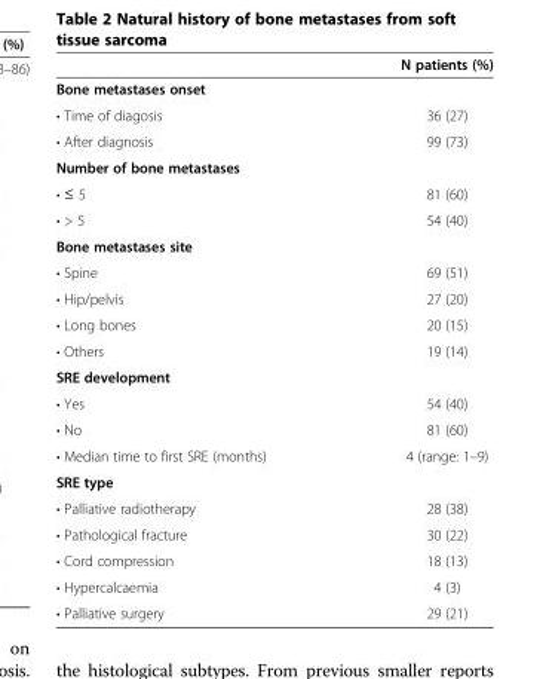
<table><thead><tr><td></td><td>N patients (%)</td></tr></thead><tbody><tr><td colspan="2">Bone metastases onset</td></tr><tr><td>• Time of diagosis</td><td>36 (27)</td></tr><tr><td>• After diagnosis</td><td>99 (73)</td></tr><tr><td colspan="2">Number of bone metastases</td></tr><tr><td>• ≤ 5</td><td>81 (60)</td></tr><tr><td>• &gt; 5</td><td>54 (40)</td></tr><tr><td colspan="2">Bone metastases site</td></tr><tr><td>• Spine</td><td>69 (51)</td></tr><tr><td>• Hip/pelvis</td><td>27 (20)</td></tr><tr><td>• Long bones</td><td>20 (15)</td></tr><tr><td>• Others</td><td>19 (14)</td></tr><tr><td colspan="2">SRE development</td></tr><tr><td>• Yes</td><td>54 (40)</td></tr><tr><td>• No</td><td>81 (60)</td></tr><tr><td>• Median time to first SRE (months)</td><td>4 (range: 1–9)</td></tr><tr><td colspan="2">SRE type</td></tr><tr><td>• Palliative radiotherapy</td><td>28 (38)</td></tr><tr><td>• Pathological fracture</td><td>30 (22)</td></tr><tr><td>• Cord compression</td><td>18 (13)</td></tr><tr><td>• Hypercalcaemia</td><td>4 (3)</td></tr><tr><td>• Palliative surgery</td><td>29 (21)</td></tr></tbody></table>